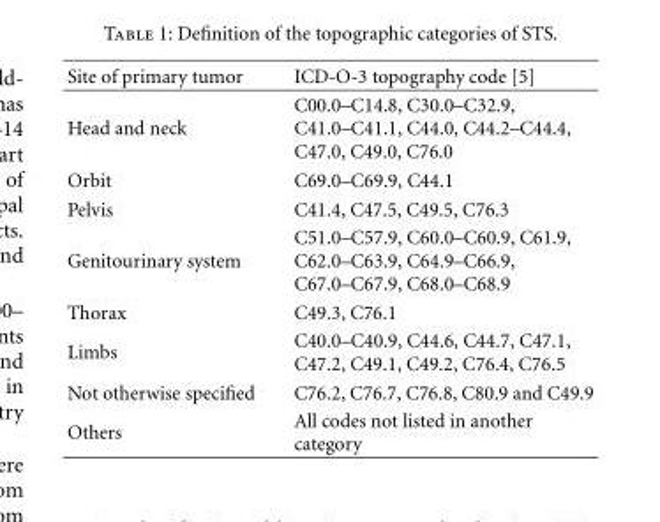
<table><thead><tr><td>Site of primary tumor</td><td>ICD-O-3 topography code [5]</td></tr></thead><tbody><tr><td>Head and neck</td><td>C00.0–C14.8, C30.0–C32.9, C41.0–C41.1, C44.0, C44.2–C44.4, C47.0, C49.0, C76.0</td></tr><tr><td>Orbit</td><td>C69.0–C69.9, C44.1</td></tr><tr><td>Pelvis</td><td>C41.4, C47.5, C49.5, C76.3</td></tr><tr><td>Genitourinary system</td><td>C51.0–C57.9, C60.0–C60.9, C61.9, C62.0–C63.9, C64.9–C66.9, C67.0–C67.9, C68.0–C68.9</td></tr><tr><td>Thorax</td><td>C49.3, C76.1</td></tr><tr><td>Limbs</td><td>C40.0–C40.9, C44.6, C44.7, C47.1, C47.2, C49.1, C49.2, C76.4, C76.5</td></tr><tr><td>Not otherwise specified</td><td>C76.2, C76.7, C76.8, C80.9 and C49.9</td></tr><tr><td>Others</td><td>All codes not listed in another category</td></tr></tbody></table>